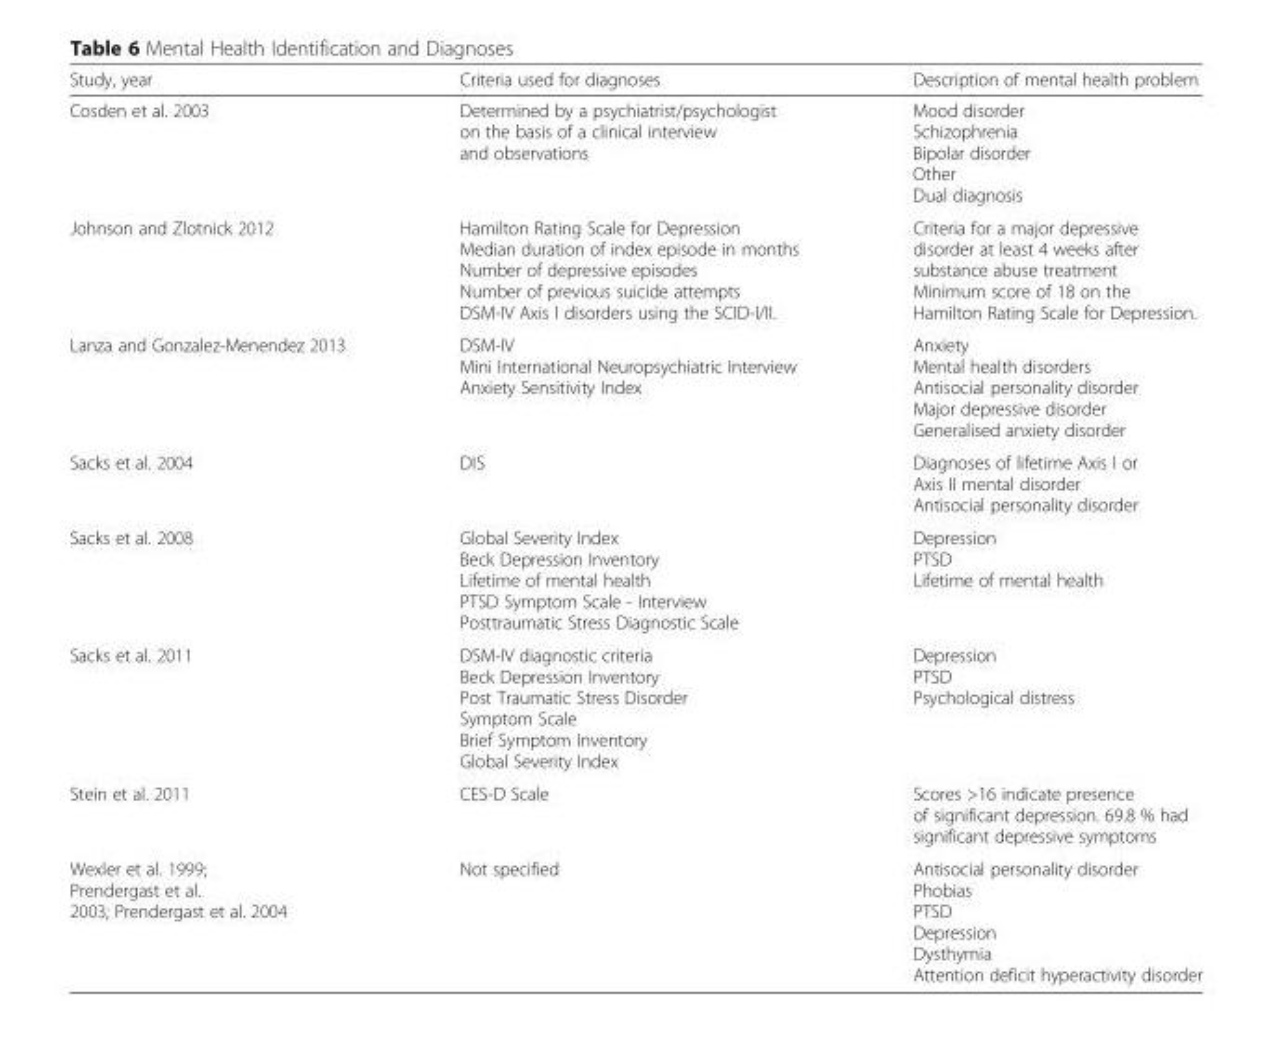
<table><thead><tr><td>Study, year</td><td>Criteria used for diagnoses</td><td>Description of mental health problem</td></tr></thead><tbody><tr><td>Cosden et al. 2003</td><td>Determined by a psychiatrist/psychologist on the basis of a clinical interview and observations</td><td>Mood disorder Schizophrenia Bipolar disorder Other Dual diagnosis</td></tr><tr><td>Johnson and Zlotnick 2012</td><td>Hamilton Rating Scale for Depression Median duration of index episode in months Number of depressive episodes Number of previous suicide attempts DSM-IV Axis I disorders using the SCID-I/II.</td><td>Criteria for a major depressive disorder at least 4 weeks after substance abuse treatment Minimum score of 18 on the Hamilton Rating Scale for Depression.</td></tr><tr><td>Lanza and Gonzalez-Menendez 2013</td><td>DSM-IV Mini International Neuropsychiatric Interview Anxiety Sensitivity Index</td><td>Anxiety Mental health disorders Antisocial personality disorder Major depressive disorder Generalised anxiety disorder</td></tr><tr><td>Sacks et al. 2004</td><td>DIS</td><td>Diagnoses of lifetime Axis I or Axis II mental disorder Antisocial personality disorder</td></tr><tr><td>Sacks et al. 2008</td><td>Global Severity Index Beck Depression Inventory Lifetime of mental health PTSD Symptom Scale - Interview Posttraumatic Stress Diagnostic Scale</td><td>Depression PTSD Lifetime of mental health</td></tr><tr><td>Sacks et al. 2011</td><td>DSM-IV diagnostic criteria Beck Depression Inventory Post Traumatic Stress Disorder Symptom Scale Brief Symptom Inventory Global Severity Index</td><td>Depression PTSD Psychological distress</td></tr><tr><td>Stein et al. 2011</td><td>CES-D Scale</td><td>Scores &gt;16 indicate presence of significant depression. 69.8 % had significant depressive symptoms</td></tr><tr><td>Wexler et al. 1999; Prendergast et al. 2003; Prendergast et al. 2004</td><td>Not specified</td><td>Antisocial personality disorder Phobias PTSD Depression Dysthymia Attention deficit hyperactivity disorder</td></tr></tbody></table>